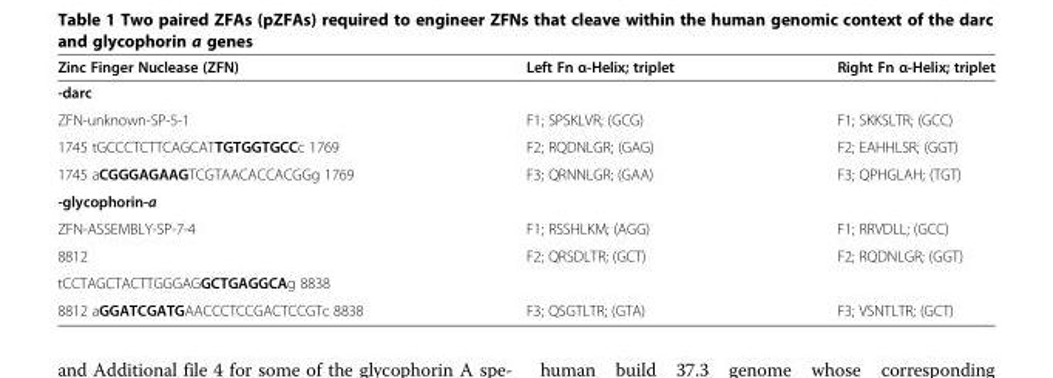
<table><thead><tr><td>Zinc Finger Nuclease (ZFN)</td><td>Left Fn α-Helix; triplet</td><td>Right Fn α-Helix; triplet</td></tr></thead><tbody><tr><td colspan="3">-darc</td></tr><tr><td>ZFN-unknown-SP-5-1</td><td>F1; SPSKLVR; (GCG)</td><td>F1; SKKSLTR; (GCC)</td></tr><tr><td>1745 tGCCCTCTTCAGCATTGTGGTGCCc 1769</td><td>F2; RQDNLGR; (GAG)</td><td>F2; EAHHLSR; (GGT)</td></tr><tr><td>1745 aCGGGAGAAGTCGTAACACCACGGg 1769</td><td>F3; QRNNLGR; (GAA)</td><td>F3; QPHGLAH; (TGT)</td></tr><tr><td colspan="3">-glycophorin-a</td></tr><tr><td>ZFN-ASSEMBLY-SP-7-4</td><td>F1; RSSHLKM; (AGG)</td><td>F1; RRVDLL; (GCC)</td></tr><tr><td>8812</td><td rowspan="2">F2; QRSDLTR; (GCT)</td><td rowspan="2">F2; RQDNLGR; (GGT)</td></tr><tr><td>tCCTAGCTACTTGGGAGGCTGAGGCAg 8838</td></tr><tr><td>8812 aGGATCGATGAACCCTCCGACTCCGTc 8838</td><td>F3; QSGTLTR; (GTA)</td><td>F3; VSNTLTR; (GCT)</td></tr></tbody></table>